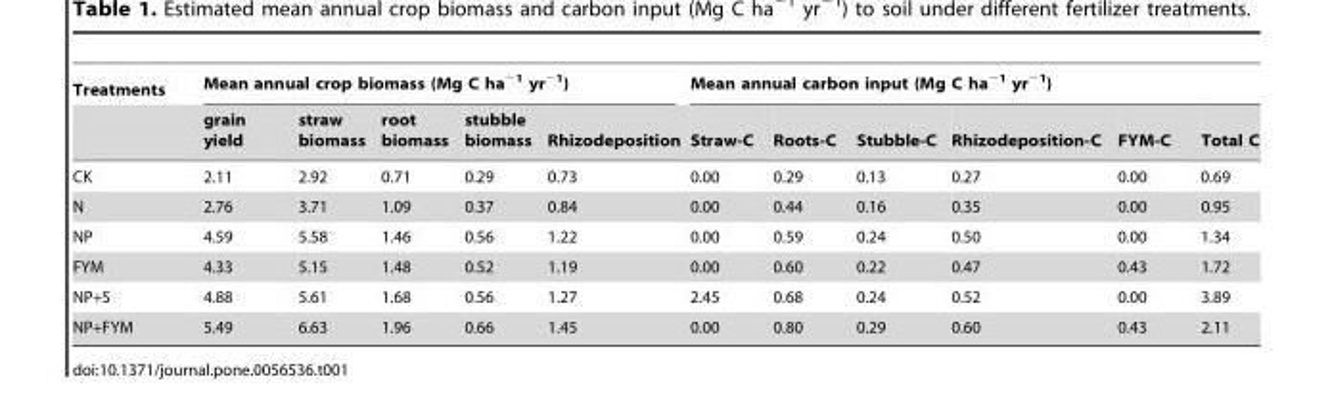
<table><thead><tr><td rowspan="2">Treatments</td><td colspan="5">Mean annual crop biomass (Mg C ha<sup>−1</sup> yr<sup>−1</sup>)</td><td colspan="6">Mean annual carbon input (Mg C ha<sup>−1</sup> yr<sup>−1</sup>)</td></tr><tr><td>grain yield</td><td>straw biomass</td><td>root biomass</td><td>stubble biomass</td><td>Rhizodeposition</td><td>Straw-C</td><td>Roots-C</td><td>Stubble-C</td><td>Rhizodeposition-C</td><td>FYM-C</td><td>Total C</td></tr></thead><tbody><tr><td>CK</td><td>2.11</td><td>2.92</td><td>0.71</td><td>0.29</td><td>0.73</td><td>0.00</td><td>0.29</td><td>0.13</td><td>0.27</td><td>0.00</td><td>0.69</td></tr><tr><td>N</td><td>2.76</td><td>3.71</td><td>1.09</td><td>0.37</td><td>0.84</td><td>0.00</td><td>0.44</td><td>0.16</td><td>0.35</td><td>0.00</td><td>0.95</td></tr><tr><td>NP</td><td>4.59</td><td>5.58</td><td>1.46</td><td>0.56</td><td>1.22</td><td>0.00</td><td>0.59</td><td>0.24</td><td>0.50</td><td>0.00</td><td>1.34</td></tr><tr><td>FYM</td><td>4.33</td><td>5.15</td><td>1.48</td><td>0.52</td><td>1.19</td><td>0.00</td><td>0.60</td><td>0.22</td><td>0.47</td><td>0.43</td><td>1.72</td></tr><tr><td>NP+S</td><td>4.88</td><td>5.61</td><td>1.68</td><td>0.56</td><td>1.27</td><td>2.45</td><td>0.68</td><td>0.24</td><td>0.52</td><td>0.00</td><td>3.89</td></tr><tr><td>NP+FYM</td><td>5.49</td><td>6.63</td><td>1.96</td><td>0.66</td><td>1.45</td><td>0.00</td><td>0.80</td><td>0.29</td><td>0.60</td><td>0.43</td><td>2.11</td></tr></tbody></table>